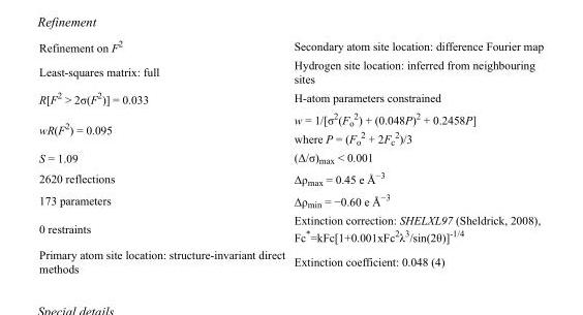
<table><tbody><tr><td>Refinement on F<sup>2</sup></td><td>Secondary atom site location: difference Fourier map</td></tr><tr><td>Least-squares matrix: full</td><td>Hydrogen site location: inferred from neighbouring sites</td></tr><tr><td>R[F<sup>2</sup> &gt; 2σ(F<sup>2</sup>)] = 0.033</td><td>H-atom parameters constrained</td></tr><tr><td>wR(F<sup>2</sup>) = 0.095</td><td>w = 1/[σ<sup>2</sup>(F<sub>o</sub> <sup>2</sup>) + (0.048P)<sup>2</sup> + 0.2458P] where P = (F<sub>o</sub> <sup>2</sup> + 2F<sub>c</sub> <sup>2</sup>)/3</td></tr><tr><td>S = 1.09</td><td>(Δ/σ)<sub>max</sub> &lt; 0.001</td></tr><tr><td>2620 reflections</td><td>Δρ<sub>max</sub> = 0.45 e Å<sup>−3</sup></td></tr><tr><td>173 parameters</td><td>Δρ<sub>min</sub> = −0.60 e Å<sup>−3</sup></td></tr><tr><td>0 restraints</td><td>Extinction correction: SHELXL97 (Sheldrick, 2008), Fc*=kFc[1+0.001xFc<sup>2</sup>λ<sup>3</sup>/sin(2θ)]<sup>-1/4</sup></td></tr><tr><td>Primary atom site location: structure-invariant direct methods</td><td>Extinction coefficient: 0.048 (4)</td></tr></tbody></table>